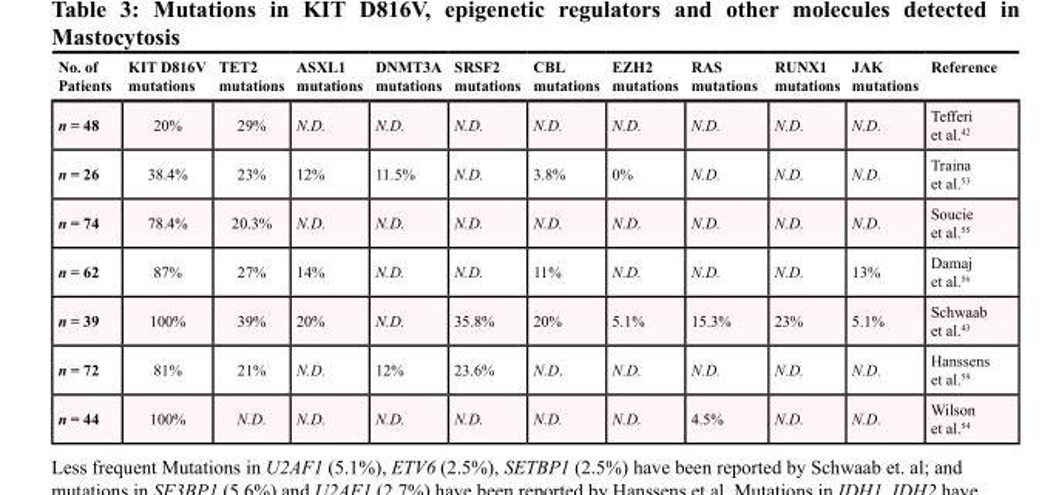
<table><thead><tr><td>No. of Patients</td><td>KIT D816V mutations</td><td>TET2 mutations</td><td>ASXL1 mutations</td><td>DNMT3A mutations</td><td>SRSF2 mutations</td><td>CBL mutations</td><td>EZH2 mutations</td><td>RAS mutations</td><td>RUNX1 mutations</td><td>JAK mutations</td><td>Reference</td></tr></thead><tbody><tr><td>n = 48</td><td>20%</td><td>29%</td><td>N.D.</td><td>N.D.</td><td>N.D.</td><td>N.D.</td><td>N.D.</td><td>N.D.</td><td>N.D.</td><td>N.D.</td><td>Tefferi et al.<sup>42</sup></td></tr><tr><td>n = 26</td><td>38.4%</td><td>23%</td><td>12%</td><td>11.5%</td><td>N.D.</td><td>3.8%</td><td>0%</td><td>N.D.</td><td>N.D.</td><td>N.D.</td><td>Traina et al.<sup>53</sup></td></tr><tr><td>n = 74</td><td>78.4%</td><td>20.3%</td><td>N.D.</td><td>N.D.</td><td>N.D.</td><td>N.D.</td><td>N.D.</td><td>N.D.</td><td>N.D.</td><td>N.D.</td><td>Soucie et al.<sup>55</sup></td></tr><tr><td>n = 62</td><td>87%</td><td>27%</td><td>14%</td><td>N.D.</td><td>N.D.</td><td>11%</td><td>N.D.</td><td>N.D.</td><td>N.D.</td><td>13%</td><td>Damaj et al.<sup>56</sup></td></tr><tr><td>n = 39</td><td>100%</td><td>39%</td><td>20%</td><td>N.D.</td><td>35.8%</td><td>20%</td><td>5.1%</td><td>15.3%</td><td>23%</td><td>5.1%</td><td>Schwaab et al.<sup>43</sup></td></tr><tr><td>n = 72</td><td>81%</td><td>21%</td><td>N.D.</td><td>12%</td><td>23.6%</td><td>N.D.</td><td>N.D.</td><td>N.D.</td><td>N.D.</td><td>N.D.</td><td>Hanssens et al.<sup>59</sup></td></tr><tr><td>n = 44</td><td>100%</td><td>N.D.</td><td>N.D.</td><td>N.D.</td><td>N.D.</td><td>N.D.</td><td>N.D.</td><td>4.5%</td><td>N.D.</td><td>N.D.</td><td>Wilson et al.<sup>54</sup></td></tr></tbody></table>